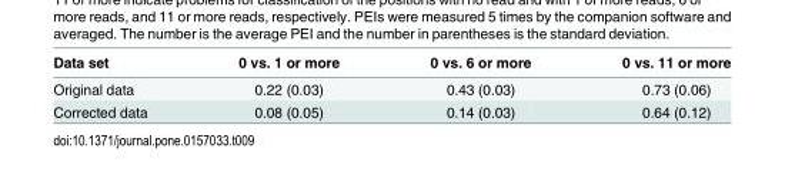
<table><thead><tr><td>Data set</td><td>0 vs. 1 or more</td><td>0 vs. 6 or more</td><td>0 vs. 11 or more</td></tr></thead><tbody><tr><td>Original data</td><td>0.22 (0.03)</td><td>0.43 (0.03)</td><td>0.73 (0.06)</td></tr><tr><td>Corrected data</td><td>0.08 (0.05)</td><td>0.14 (0.03)</td><td>0.64 (0.12)</td></tr></tbody></table>